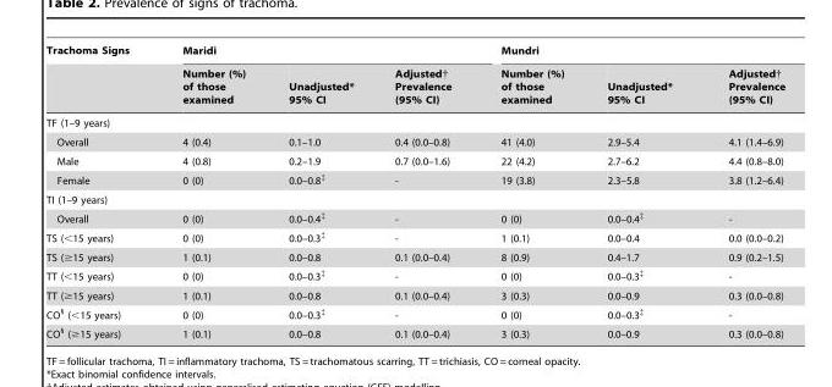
<table><thead><tr><td rowspan="2">Trachoma Signs</td><td colspan="3">Maridi</td><td colspan="3">Mundri</td></tr><tr><td>Number (%) of those examined</td><td>Unadjusted* 95% CI</td><td>Adjusted† Prevalence (95% CI)</td><td>Number (%) of those examined</td><td>Unadjusted* 95% CI</td><td>Adjusted† Prevalence (95% CI)</td></tr></thead><tbody><tr><td colspan="7">TF (1–9 years)</td></tr><tr><td>Overall</td><td>4 (0.4)</td><td>0.1–1.0</td><td>0.4 (0.0–0.8)</td><td>41 (4.0)</td><td>2.9–5.4</td><td>4.1 (1.4–6.9)</td></tr><tr><td>Male</td><td>4 (0.8)</td><td>0.2–1.9</td><td>0.7 (0.0–1.6)</td><td>22 (4.2)</td><td>2.7–6.2</td><td>4.4 (0.8–8.0)</td></tr><tr><td>Female</td><td>0 (0)</td><td>0.0–0.8‡</td><td>-</td><td>19 (3.8)</td><td>2.3–5.8</td><td>3.8 (1.2–6.4)</td></tr><tr><td colspan="7">TI (1–9 years)</td></tr><tr><td>Overall</td><td>0 (0)</td><td>0.0–0.4‡</td><td>-</td><td>0 (0)</td><td>0.0–0.4‡</td><td>-</td></tr><tr><td>TS (&lt;15 years)</td><td>0 (0)</td><td>0.0–0.3‡</td><td>-</td><td>1 (0.1)</td><td>0.0–0.4</td><td>0.0 (0.0–0.2)</td></tr><tr><td>TS (≥15 years)</td><td>1 (0.1)</td><td>0.0–0.8</td><td>0.1 (0.0–0.4)</td><td>8 (0.9)</td><td>0.4–1.7</td><td>0.9 (0.2–1.5)</td></tr><tr><td>TT (&lt;15 years)</td><td>0 (0)</td><td>0.0–0.3‡</td><td>-</td><td>0 (0)</td><td>0.0–0.3‡</td><td>-</td></tr><tr><td>TT (≥15 years)</td><td>1 (0.1)</td><td>0.0–0.8</td><td>0.1 (0.0–0.4)</td><td>3 (0.3)</td><td>0.0–0.9</td><td>0.3 (0.0–0.8)</td></tr><tr><td>CO§ (&lt;15 years)</td><td>0 (0)</td><td>0.0–0.3‡</td><td>-</td><td>0 (0)</td><td>0.0–0.3‡</td><td>-</td></tr><tr><td>CO§ (≥15 years)</td><td>1 (0.1)</td><td>0.0–0.8</td><td>0.1 (0.0–0.4)</td><td>3 (0.3)</td><td>0.0–0.9</td><td>0.3 (0.0–0.8)</td></tr></tbody></table>